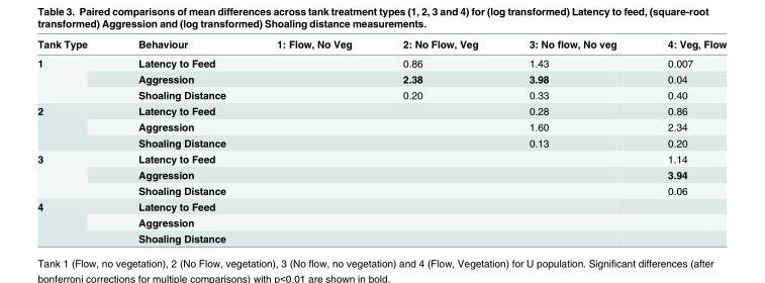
<table><thead><tr><td>Tank Type</td><td>Behaviour</td><td>1: Flow, No Veg</td><td>2: No Flow, Veg</td><td>3: No flow, No veg</td><td>4: Veg, Flow</td></tr></thead><tbody><tr><td rowspan="3">1</td><td>Latency to Feed</td><td></td><td>0.86</td><td>1.43</td><td>0.007</td></tr><tr><td>Aggression</td><td></td><td>2.38</td><td>3.98</td><td>0.04</td></tr><tr><td>Shoaling Distance</td><td></td><td>0.20</td><td>0.33</td><td>0.40</td></tr><tr><td rowspan="3">2</td><td>Latency to Feed</td><td></td><td></td><td>0.28</td><td>0.86</td></tr><tr><td>Aggression</td><td></td><td></td><td>1.60</td><td>2.34</td></tr><tr><td>Shoaling Distance</td><td></td><td></td><td>0.13</td><td>0.20</td></tr><tr><td rowspan="3">3</td><td>Latency to Feed</td><td></td><td></td><td></td><td>1.14</td></tr><tr><td>Aggression</td><td></td><td></td><td></td><td>3.94</td></tr><tr><td>Shoaling Distance</td><td></td><td></td><td></td><td>0.06</td></tr><tr><td rowspan="3">4</td><td>Latency to Feed</td><td></td><td></td><td></td><td></td></tr><tr><td>Aggression</td><td></td><td></td><td></td><td></td></tr><tr><td>Shoaling Distance</td><td></td><td></td><td></td><td></td></tr></tbody></table>